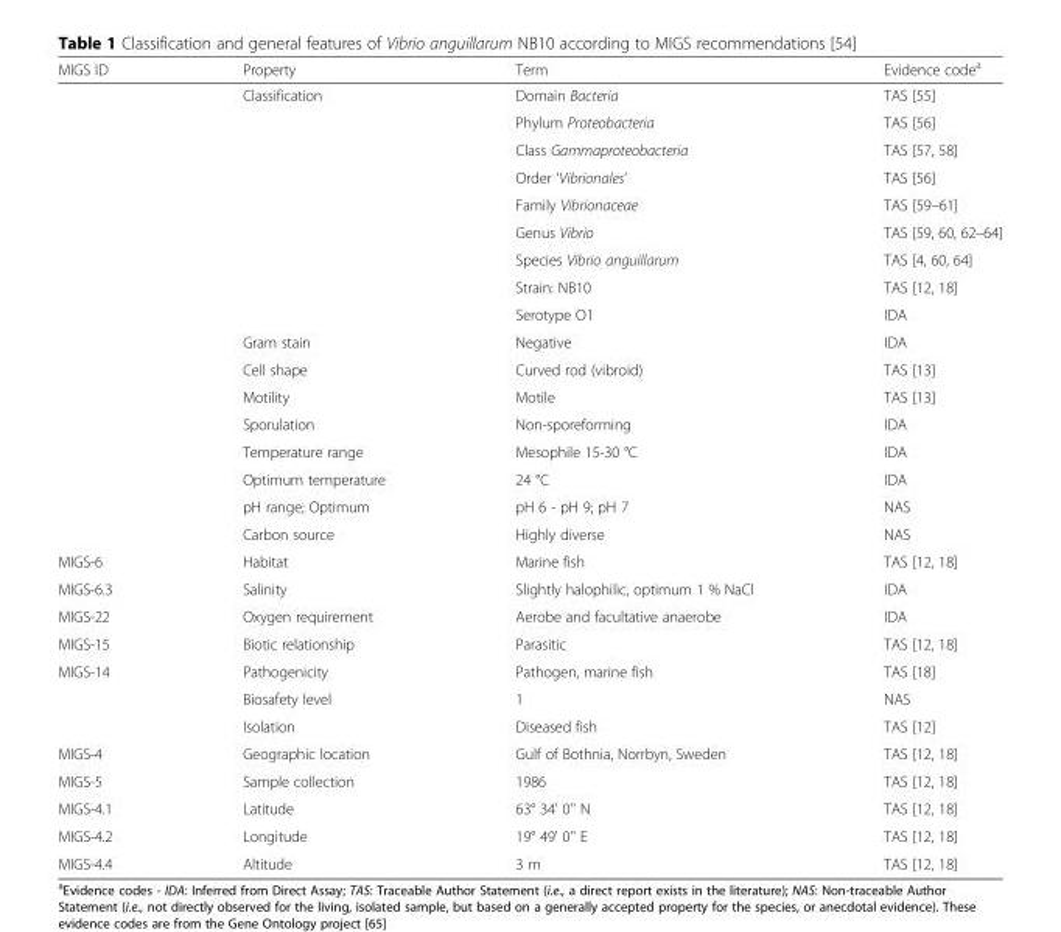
<table><thead><tr><td>MIGS ID</td><td>Property</td><td>Term</td><td>Evidence code<sup>a</sup></td></tr></thead><tbody><tr><td></td><td>Classification</td><td>Domain Bacteria</td><td>TAS [55]</td></tr><tr><td></td><td></td><td>Phylum Proteobacteria</td><td>TAS [56]</td></tr><tr><td></td><td></td><td>Class Gammaproteobacteria</td><td>TAS [57, 58]</td></tr><tr><td></td><td></td><td>Order ‘Vibrionales’</td><td>TAS [56]</td></tr><tr><td></td><td></td><td>Family Vibrionaceae</td><td>TAS [59–61]</td></tr><tr><td></td><td></td><td>Genus Vibrio</td><td>TAS [59, 60, 62–64]</td></tr><tr><td></td><td></td><td>Species Vibrio anguillarum</td><td>TAS [4, 60, 64]</td></tr><tr><td></td><td></td><td>Strain: NB10</td><td>TAS [12, 18]</td></tr><tr><td></td><td></td><td>Serotype O1</td><td>IDA</td></tr><tr><td></td><td>Gram stain</td><td>Negative</td><td>IDA</td></tr><tr><td></td><td>Cell shape</td><td>Curved rod (vibroid)</td><td>TAS [13]</td></tr><tr><td></td><td>Motility</td><td>Motile</td><td>TAS [13]</td></tr><tr><td></td><td>Sporulation</td><td>Non-sporeforming</td><td>IDA</td></tr><tr><td></td><td>Temperature range</td><td>Mesophile 15-30 °C</td><td>IDA</td></tr><tr><td></td><td>Optimum temperature</td><td>24 °C</td><td>IDA</td></tr><tr><td></td><td>pH range; Optimum</td><td>pH 6 - pH 9; pH 7</td><td>NAS</td></tr><tr><td></td><td>Carbon source</td><td>Highly diverse</td><td>NAS</td></tr><tr><td>MIGS-6</td><td>Habitat</td><td>Marine fish</td><td>TAS [12, 18]</td></tr><tr><td>MIGS-6.3</td><td>Salinity</td><td>Slightly halophilic, optimum 1 % NaCl</td><td>IDA</td></tr><tr><td>MIGS-22</td><td>Oxygen requirement</td><td>Aerobe and facultative anaerobe</td><td>IDA</td></tr><tr><td>MIGS-15</td><td>Biotic relationship</td><td>Parasitic</td><td>TAS [12, 18]</td></tr><tr><td rowspan="3">MIGS-14</td><td>Pathogenicity</td><td>Pathogen, marine fish</td><td>TAS [18]</td></tr><tr><td>Biosafety level</td><td>1</td><td>NAS</td></tr><tr><td>Isolation</td><td>Diseased fish</td><td>TAS [12]</td></tr><tr><td>MIGS-4</td><td>Geographic location</td><td>Gulf of Bothnia, Norrbyn, Sweden</td><td>TAS [12, 18]</td></tr><tr><td>MIGS-5</td><td>Sample collection</td><td>1986</td><td>TAS [12, 18]</td></tr><tr><td>MIGS-4.1</td><td>Latitude</td><td>63° 34&#x27; 0&#x27;&#x27; N</td><td>TAS [12, 18]</td></tr><tr><td>MIGS-4.2</td><td>Longitude</td><td>19° 49&#x27; 0&#x27;&#x27; E</td><td>TAS [12, 18]</td></tr><tr><td>MIGS-4.4</td><td>Altitude</td><td>3 m</td><td>TAS [12, 18]</td></tr></tbody></table>